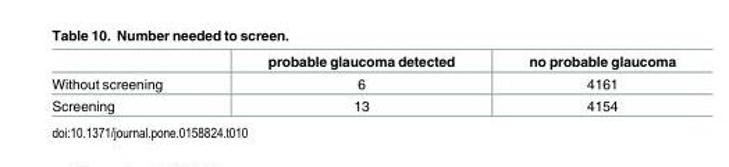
<table><thead><tr><td></td><td>probable glaucoma detected</td><td>no probable glaucoma</td></tr></thead><tbody><tr><td>Without screening</td><td>6</td><td>4161</td></tr><tr><td>Screening</td><td>13</td><td>4154</td></tr></tbody></table>